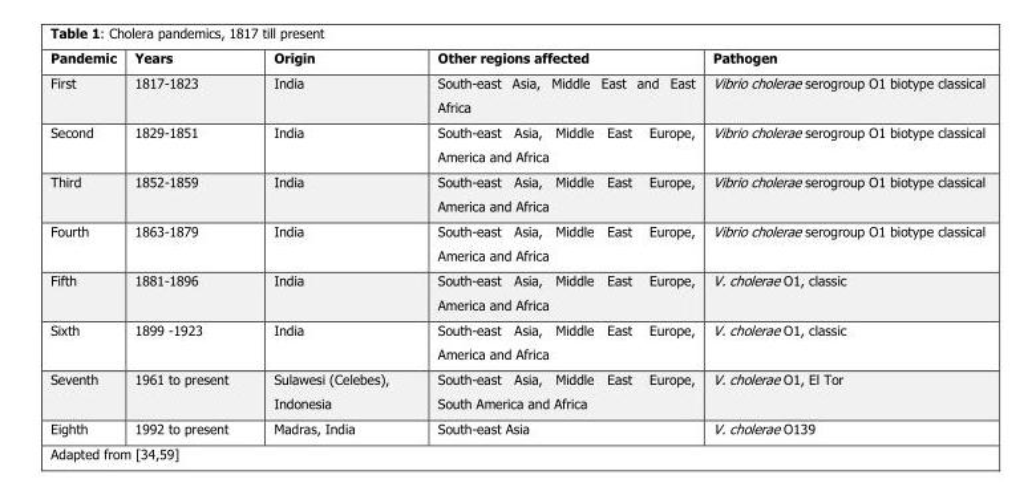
<table><thead><tr><td>Pandemic</td><td>Years</td><td>Origin</td><td>Other regions affected</td><td>Pathogen</td></tr></thead><tbody><tr><td>First</td><td>1817-1823</td><td>India</td><td>South-east Asia, Middle East and East Africa</td><td>Vibrio cholerae serogroup O1 biotype classical</td></tr><tr><td>Second</td><td>1829-1851</td><td>India</td><td>South-east Asia, Middle East Europe, America and Africa</td><td>Vibrio cholerae serogroup O1 biotype classical</td></tr><tr><td>Third</td><td>1852-1859</td><td>India</td><td>South-east Asia, Middle East Europe, America and Africa</td><td>Vibrio cholerae serogroup O1 biotype classical</td></tr><tr><td>Fourth</td><td>1863-1879</td><td>India</td><td>South-east Asia, Middle East Europe, America and Africa</td><td>Vibrio cholerae serogroup O1 biotype classical</td></tr><tr><td>Fifth</td><td>1881-1896</td><td>India</td><td>South-east Asia, Middle East Europe, America and Africa</td><td>V. cholerae O1, classic</td></tr><tr><td>Sixth</td><td>1899 -1923</td><td>India</td><td>South-east Asia, Middle East Europe, America and Africa</td><td>V. cholerae O1, classic</td></tr><tr><td>Seventh</td><td>1961 to present</td><td>Sulawesi (Celebes), Indonesia</td><td>South-east Asia, Middle East Europe, South America and Africa</td><td>V. cholerae O1, El Tor</td></tr><tr><td>Eighth</td><td>1992 to present</td><td>Madras, India</td><td>South-east Asia</td><td>V. cholerae O139</td></tr></tbody></table>